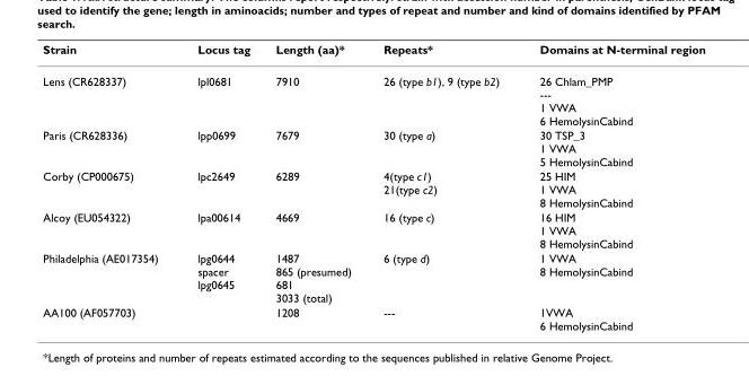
<table><thead><tr><td>Strain</td><td>Locus tag</td><td>Length (aa)*</td><td>Repeats*</td><td>Domains at N-terminal region</td></tr></thead><tbody><tr><td>Lens (CR628337)</td><td>lpl0681</td><td>7910</td><td>26 (type b1), 9 (type b2)</td><td>26 Chlam_PMP --- 1 VWA 6 HemolysinCabind</td></tr><tr><td>Paris (CR628336)</td><td>lpp0699</td><td>7679</td><td>30 (type a)</td><td>30 TSP_3 1 VWA 5 HemolysinCabind</td></tr><tr><td>Corby (CP000675)</td><td>lpc2649</td><td>6289</td><td>4(type c1) 21(type c2)</td><td>25 HIM 1 VWA 8 HemolysinCabind</td></tr><tr><td>Alcoy (EU054322)</td><td>lpa00614</td><td>4669</td><td>16 (type c)</td><td>16 HIM 1 VWA 8 HemolysinCabind</td></tr><tr><td>Philadelphia (AE017354)</td><td>lpg0644 spacer lpg0645</td><td>1487 865 (presumed) 681 3033 (total)</td><td>6 (type d)</td><td>1 VWA 8 HemolysinCabind</td></tr><tr><td>AA100 (AF057703)</td><td></td><td>1208</td><td>---</td><td>1VWA 6 HemolysinCabind</td></tr></tbody></table>